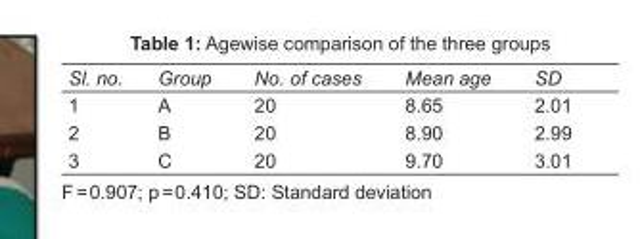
<table><tbody><tr><td>Sl. no.</td><td>Group</td><td>No. of cases</td><td>Mean age</td><td>SD</td></tr><tr><td>1</td><td>A</td><td>20</td><td>8.65</td><td>2.01</td></tr><tr><td>2</td><td>B</td><td>20</td><td>8.90</td><td>2.99</td></tr><tr><td>3</td><td>C</td><td>20</td><td>9.70</td><td>3.01</td></tr></tbody></table>